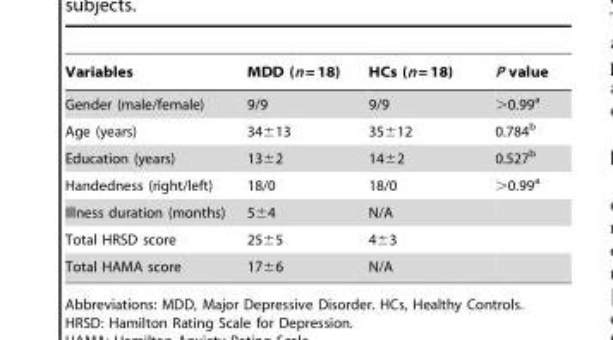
<table><thead><tr><td>Variables</td><td>MDD (n = 18)</td><td>HCs (n = 18)</td><td>P value</td></tr></thead><tbody><tr><td>Gender (male/female)</td><td>9/9</td><td>9/9</td><td>&gt;0.99<sup>a</sup></td></tr><tr><td>Age (years)</td><td>34±13</td><td>35±12</td><td>0.784<sup>b</sup></td></tr><tr><td>Education (years)</td><td>13±2</td><td>14±2</td><td>0.527<sup>b</sup></td></tr><tr><td>Handedness (right/left)</td><td>18/0</td><td>18/0</td><td>&gt;0.99<sup>a</sup></td></tr><tr><td>Illness duration (months)</td><td>5±4</td><td>N/A</td><td></td></tr><tr><td>Total HRSD score</td><td>25±5</td><td>4±3</td><td></td></tr><tr><td>Total HAMA score</td><td>17±6</td><td>N/A</td><td></td></tr></tbody></table>